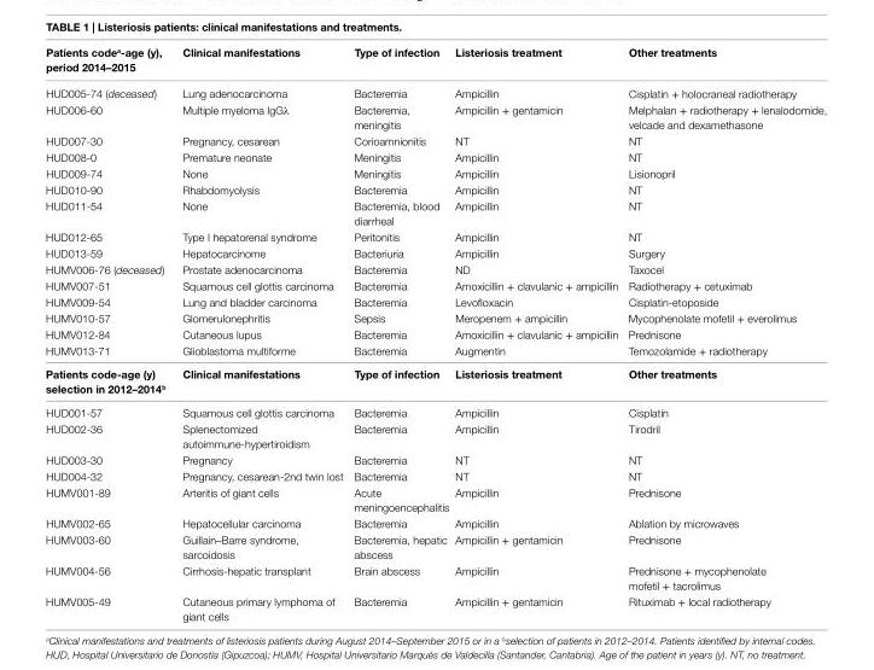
<table><thead><tr><td>patients code<sup>a</sup>-age (y), period 2014–2015</td><td>Clinical manifestations</td><td>type of infection</td><td>Listeriosis treatment</td><td>other treatments</td></tr></thead><tbody><tr><td>HUD005-74 (deceased)</td><td>Lung adenocarcinoma</td><td>Bacteremia</td><td>Ampicillin</td><td>Cisplatin + holocraneal radiotherapy</td></tr><tr><td>HUD006-60</td><td>Multiple myeloma IgGλ</td><td>Bacteremia, meningitis</td><td>Ampicillin + gentamicin</td><td>Melphalan + radiotherapy + lenalodomide, velcade and dexamethasone</td></tr><tr><td>HUD007-30</td><td>Pregnancy, cesarean</td><td>Corioamnionitis</td><td>NT</td><td>NT</td></tr><tr><td>HUD008-0</td><td>Premature neonate</td><td>Meningitis</td><td>Ampicillin</td><td>NT</td></tr><tr><td>HUD009-74</td><td>None</td><td>Meningitis</td><td>Ampicillin</td><td>Lisionopril</td></tr><tr><td>HUD010-90</td><td>Rhabdomyolysis</td><td>Bacteremia</td><td>Ampicillin</td><td>NT</td></tr><tr><td>HUD011-54</td><td>None</td><td>Bacteremia, blood diarrheal</td><td>Ampicillin</td><td>NT</td></tr><tr><td>HUD012-65</td><td>Type I hepatorenal syndrome</td><td>Peritonitis</td><td>Ampicillin</td><td>NT</td></tr><tr><td>HUD013-59</td><td>Hepatocarcinome</td><td>Bacteriuria</td><td>Ampicillin</td><td>Surgery</td></tr><tr><td>HUMV006-76 (deceased)</td><td>Prostate adenocarcinoma</td><td>Bacteremia</td><td>ND</td><td>Taxocel</td></tr><tr><td>HUMV007-51</td><td>Squamous cell glottis carcinoma</td><td>Bacteremia</td><td>Amoxicillin + clavulanic + ampicillin</td><td>Radiotherapy + cetuximab</td></tr><tr><td>HUMV009-54</td><td>Lung and bladder carcinoma</td><td>Bacteremia</td><td>Levofloxacin</td><td>Cisplatin-etoposide</td></tr><tr><td>HUMV010-57</td><td>Glomerulonephritis</td><td>Sepsis</td><td>Meropenem + ampicillin</td><td>Mycophenolate mofetil + everolimus</td></tr><tr><td>HUMV012-84</td><td>Cutaneous lupus</td><td>Bacteremia</td><td>Amoxicillin + clavulanic + ampicillin</td><td>Prednisone</td></tr><tr><td>HUMV013-71</td><td>Glioblastoma multiforme</td><td>Bacteremia</td><td>Augmentin</td><td>Temozolamide + radiotherapy</td></tr><tr><td>patients code-age (y) selection in 2012–2014<sup>b</sup></td><td>Clinical manifestations</td><td>type of infection</td><td>Listeriosis treatment</td><td>other treatments</td></tr><tr><td>HUD001-57</td><td>Squamous cell glottis carcinoma</td><td>Bacteremia</td><td>Ampicillin</td><td>Cisplatin</td></tr><tr><td>HUD002-36</td><td>Splenectomized autoimmune-hypertiroidism</td><td>Bacteremia</td><td>Ampicillin</td><td>Tirodril</td></tr><tr><td>HUD003-30</td><td>Pregnancy</td><td>Bacteremia</td><td>NT</td><td>NT</td></tr><tr><td>HUD004-32</td><td>Pregnancy, cesarean-2nd twin lost</td><td>Bacteremia</td><td>NT</td><td>NT</td></tr><tr><td>HUMV001-89</td><td>Arteritis of giant cells</td><td>Acute meningoencephalitis</td><td>Ampicillin</td><td>Prednisone</td></tr><tr><td>HUMV002-65</td><td>Hepatocellular carcinoma</td><td>Bacteremia</td><td>Ampicillin</td><td>Ablation by microwaves</td></tr><tr><td>HUMV003-60</td><td>Guillain–Barre syndrome, sarcoidosis</td><td>Bacteremia, hepatic abscess</td><td>Ampicillin + gentamicin</td><td>Prednisone</td></tr><tr><td>HUMV004-56</td><td>Cirrhosis-hepatic transplant</td><td>Brain abscess</td><td>Ampicillin</td><td>Prednisone + mycophenolate mofetil + tacrolimus</td></tr><tr><td>HUMV005-49</td><td>Cutaneous primary lymphoma of giant cells</td><td>Bacteremia</td><td>Ampicillin + gentamicin</td><td>Rituximab + local radiotherapy</td></tr></tbody></table>